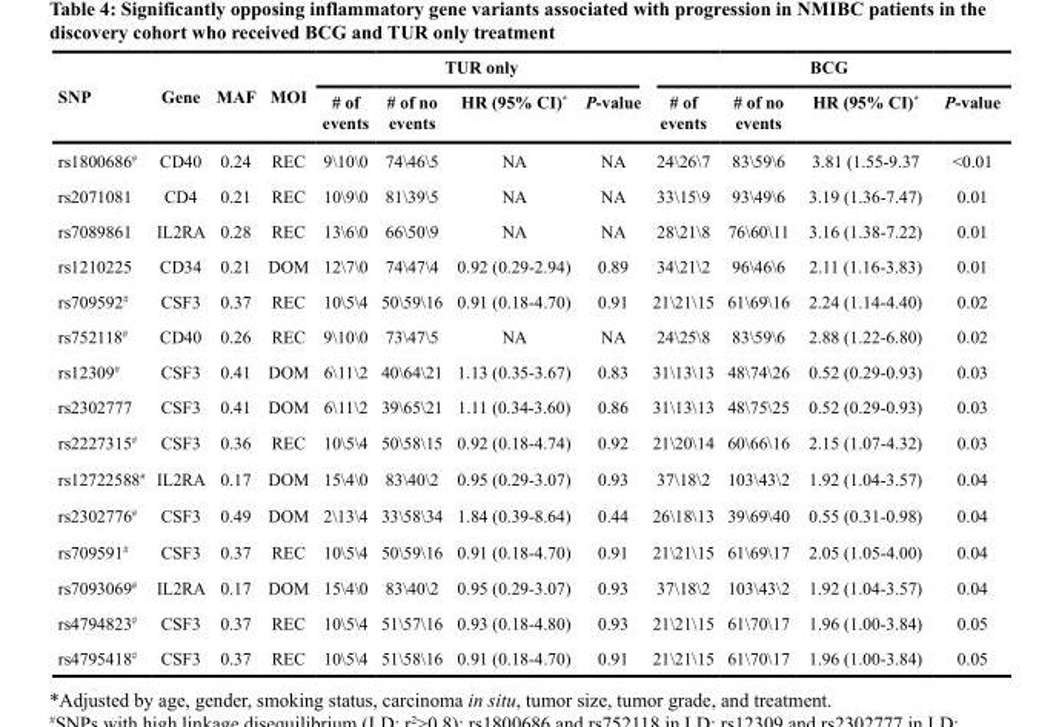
<table><thead><tr><td rowspan="2">SNP</td><td rowspan="2">Gene</td><td rowspan="2">MAF</td><td rowspan="2">MOI</td><td colspan="4">TUR only</td><td colspan="4">BCG</td></tr><tr><td># of events</td><td># of no events</td><td>HR (95% CI)*</td><td>P-value</td><td># of events</td><td># of no events</td><td>HR (95% CI)*</td><td>P-value</td></tr></thead><tbody><tr><td>rs1800686<sup>#</sup></td><td>CD40</td><td>0.24</td><td>REC</td><td>9\10\0</td><td>74\46\5</td><td>NA</td><td>NA</td><td>24\26\7</td><td>83\59\6</td><td>3.81 (1.55-9.37</td><td>&lt;0.01</td></tr><tr><td>rs2071081</td><td>CD4</td><td>0.21</td><td>REC</td><td>10\9\0</td><td>81\39\5</td><td>NA</td><td>NA</td><td>33\15\9</td><td>93\49\6</td><td>3.19 (1.36-7.47)</td><td>0.01</td></tr><tr><td>rs7089861</td><td>IL2RA</td><td>0.28</td><td>REC</td><td>13\6\0</td><td>66\50\9</td><td>NA</td><td>NA</td><td>28\21\8</td><td>76\60\11</td><td>3.16 (1.38-7.22)</td><td>0.01</td></tr><tr><td>rs1210225</td><td>CD34</td><td>0.21</td><td>DOM</td><td>12\7\0</td><td>74\47\4</td><td>0.92 (0.29-2.94)</td><td>0.89</td><td>34\21\2</td><td>96\46\6</td><td>2.11 (1.16-3.83)</td><td>0.01</td></tr><tr><td>rs709592<sup>#</sup></td><td>CSF3</td><td>0.37</td><td>REC</td><td>10\5\4</td><td>50\59\16</td><td>0.91 (0.18-4.70)</td><td>0.91</td><td>21\21\15</td><td>61\69\16</td><td>2.24 (1.14-4.40)</td><td>0.02</td></tr><tr><td>rs752118<sup>#</sup></td><td>CD40</td><td>0.26</td><td>REC</td><td>9\10\0</td><td>73\47\5</td><td>NA</td><td>NA</td><td>24\25\8</td><td>83\59\6</td><td>2.88 (1.22-6.80)</td><td>0.02</td></tr><tr><td>rs12309<sup>#</sup></td><td>CSF3</td><td>0.41</td><td>DOM</td><td>6\11\2</td><td>40\64\21</td><td>1.13 (0.35-3.67)</td><td>0.83</td><td>31\13\13</td><td>48\74\26</td><td>0.52 (0.29-0.93)</td><td>0.03</td></tr><tr><td>rs2302777</td><td>CSF3</td><td>0.41</td><td>DOM</td><td>6\11\2</td><td>39\65\21</td><td>1.11 (0.34-3.60)</td><td>0.86</td><td>31\13\13</td><td>48\75\25</td><td>0.52 (0.29-0.93)</td><td>0.03</td></tr><tr><td>rs2227315<sup>#</sup></td><td>CSF3</td><td>0.36</td><td>REC</td><td>10\5\4</td><td>50\58\15</td><td>0.92 (0.18-4.74)</td><td>0.92</td><td>21\20\14</td><td>60\66\16</td><td>2.15 (1.07-4.32)</td><td>0.03</td></tr><tr><td>rs12722588<sup>#</sup></td><td>IL2RA</td><td>0.17</td><td>DOM</td><td>15\4\0</td><td>83\40\2</td><td>0.95 (0.29-3.07)</td><td>0.93</td><td>37\18\2</td><td>103\43\2</td><td>1.92 (1.04-3.57)</td><td>0.04</td></tr><tr><td>rs2302776<sup>#</sup></td><td>CSF3</td><td>0.49</td><td>DOM</td><td>2\13\4</td><td>33\58\34</td><td>1.84 (0.39-8.64)</td><td>0.44</td><td>26\18\13</td><td>39\69\40</td><td>0.55 (0.31-0.98)</td><td>0.04</td></tr><tr><td>rs709591<sup>#</sup></td><td>CSF3</td><td>0.37</td><td>REC</td><td>10\5\4</td><td>50\59\16</td><td>0.91 (0.18-4.70)</td><td>0.91</td><td>21\21\15</td><td>61\69\17</td><td>2.05 (1.05-4.00)</td><td>0.04</td></tr><tr><td>rs7093069<sup>#</sup></td><td>IL2RA</td><td>0.17</td><td>DOM</td><td>15\4\0</td><td>83\40\2</td><td>0.95 (0.29-3.07)</td><td>0.93</td><td>37\18\2</td><td>103\43\2</td><td>1.92 (1.04-3.57)</td><td>0.04</td></tr><tr><td>rs4794823<sup>#</sup></td><td>CSF3</td><td>0.37</td><td>REC</td><td>10\5\4</td><td>51\57\16</td><td>0.93 (0.18-4.80)</td><td>0.93</td><td>21\21\15</td><td>61\70\17</td><td>1.96 (1.00-3.84)</td><td>0.05</td></tr><tr><td>rs4795418<sup>#</sup></td><td>CSF3</td><td>0.37</td><td>REC</td><td>10\5\4</td><td>51\58\16</td><td>0.91 (0.18-4.70)</td><td>0.91</td><td>21\21\15</td><td>61\70\17</td><td>1.96 (1.00-3.84)</td><td>0.05</td></tr></tbody></table>